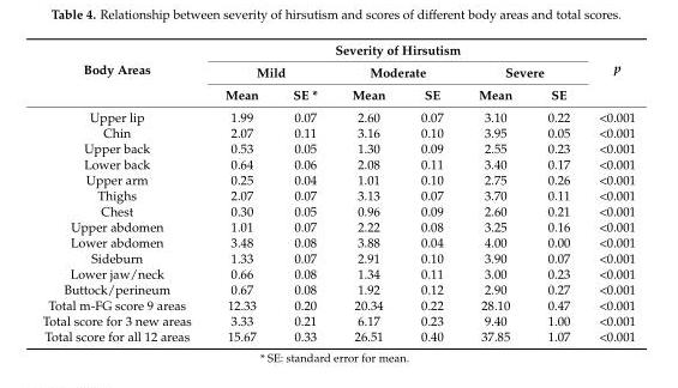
<table><thead><tr><td rowspan="3">Body Areas</td><td colspan="6">Severity of Hirsutism</td><td rowspan="3">p</td></tr><tr><td colspan="2">Mild</td><td colspan="2">Moderate</td><td colspan="2">Severe</td></tr><tr><td>Mean</td><td>SE *</td><td>Mean</td><td>SE</td><td>Mean</td><td>SE</td></tr></thead><tbody><tr><td>Upper lip</td><td>1.99</td><td>0.07</td><td>2.60</td><td>0.07</td><td>3.10</td><td>0.22</td><td>&lt;0.001</td></tr><tr><td>Chin</td><td>2.07</td><td>0.11</td><td>3.16</td><td>0.10</td><td>3.95</td><td>0.05</td><td>&lt;0.001</td></tr><tr><td>Upper back</td><td>0.53</td><td>0.05</td><td>1.30</td><td>0.09</td><td>2.55</td><td>0.23</td><td>&lt;0.001</td></tr><tr><td>Lower back</td><td>0.64</td><td>0.06</td><td>2.08</td><td>0.11</td><td>3.40</td><td>0.17</td><td>&lt;0.001</td></tr><tr><td>Upper arm</td><td>0.25</td><td>0.04</td><td>1.01</td><td>0.10</td><td>2.75</td><td>0.26</td><td>&lt;0.001</td></tr><tr><td>Thighs</td><td>2.07</td><td>0.07</td><td>3.13</td><td>0.07</td><td>3.70</td><td>0.11</td><td>&lt;0.001</td></tr><tr><td>Chest</td><td>0.30</td><td>0.05</td><td>0.96</td><td>0.09</td><td>2.60</td><td>0.21</td><td>&lt;0.001</td></tr><tr><td>Upper abdomen</td><td>1.01</td><td>0.07</td><td>2.22</td><td>0.08</td><td>3.25</td><td>0.16</td><td>&lt;0.001</td></tr><tr><td>Lower abdomen</td><td>3.48</td><td>0.08</td><td>3.88</td><td>0.04</td><td>4.00</td><td>0.00</td><td>&lt;0.001</td></tr><tr><td>Sideburn</td><td>1.33</td><td>0.07</td><td>2.91</td><td>0.10</td><td>3.90</td><td>0.07</td><td>&lt;0.001</td></tr><tr><td>Lower jaw/neck</td><td>0.66</td><td>0.08</td><td>1.34</td><td>0.11</td><td>3.00</td><td>0.23</td><td>&lt;0.001</td></tr><tr><td>Buttock/perineum</td><td>0.67</td><td>0.08</td><td>1.92</td><td>0.12</td><td>2.90</td><td>0.27</td><td>&lt;0.001</td></tr><tr><td>Total m-FG score 9 areas</td><td>12.33</td><td>0.20</td><td>20.34</td><td>0.22</td><td>28.10</td><td>0.47</td><td>&lt;0.001</td></tr><tr><td>Total score for 3 new areas</td><td>3.33</td><td>0.21</td><td>6.17</td><td>0.23</td><td>9.40</td><td>1.00</td><td>&lt;0.001</td></tr><tr><td>Total score for all 12 areas</td><td>15.67</td><td>0.33</td><td>26.51</td><td>0.40</td><td>37.85</td><td>1.07</td><td>&lt;0.001</td></tr></tbody></table>